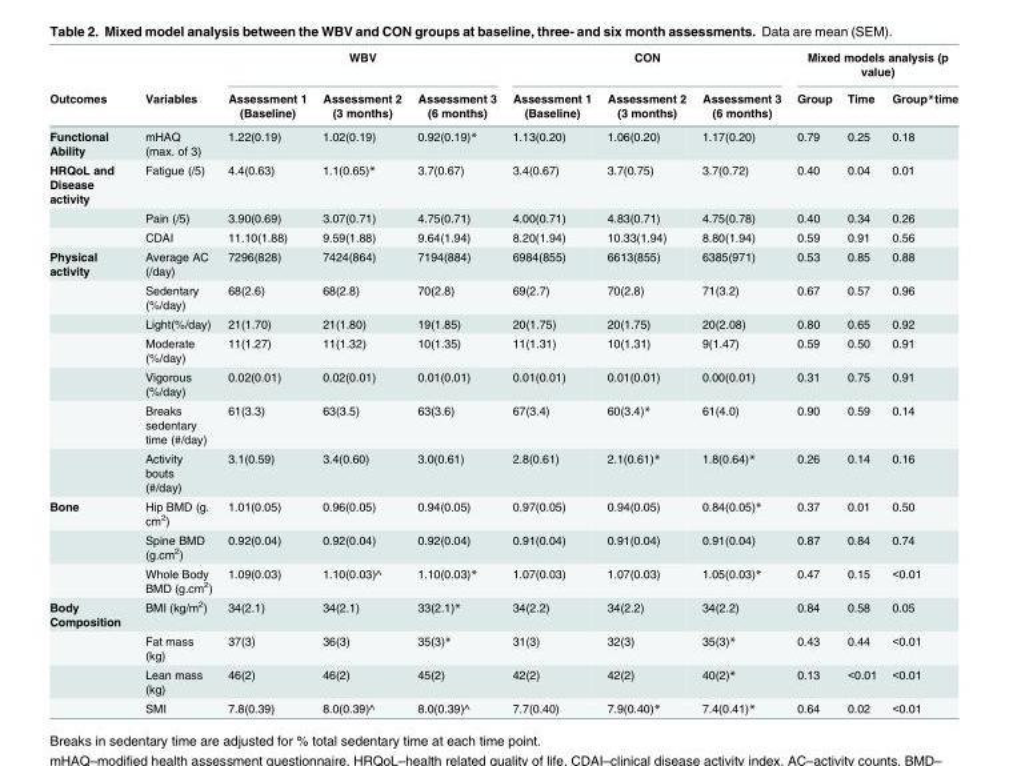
<table><thead><tr><td rowspan="2">Outcomes</td><td rowspan="2">Variables</td><td colspan="3">WBV</td><td colspan="3">CON</td><td colspan="3">Mixed models analysis (p value)</td></tr><tr><td>Assessment 1 (Baseline)</td><td>Assessment 2 (3 months)</td><td>Assessment 3 (6 months)</td><td>Assessment 1 (Baseline)</td><td>Assessment 2 (3 months)</td><td>Assessment 3 (6 months)</td><td>Group</td><td>Time</td><td>Group*time</td></tr></thead><tbody><tr><td>Functional Ability</td><td>mHAQ (max. of 3)</td><td>1.22(0.19)</td><td>1.02(0.19)</td><td>0.92(0.19)*</td><td>1.13(0.20)</td><td>1.06(0.20)</td><td>1.17(0.20)</td><td>0.79</td><td>0.25</td><td>0.18</td></tr><tr><td rowspan="3">HRQoL and Disease activity</td><td>Fatigue (/5)</td><td>4.4(0.63)</td><td>1.1(0.65)*</td><td>3.7(0.67)</td><td>3.4(0.67)</td><td>3.7(0.75)</td><td>3.7(0.72)</td><td>0.40</td><td>0.04</td><td>0.01</td></tr><tr><td>Pain (/5)</td><td>3.90(0.69)</td><td>3.07(0.71)</td><td>4.75(0.71)</td><td>4.00(0.71)</td><td>4.83(0.71)</td><td>4.75(0.78)</td><td>0.40</td><td>0.34</td><td>0.26</td></tr><tr><td>CDAI</td><td>11.10(1.88)</td><td>9.59(1.88)</td><td>9.64(1.94)</td><td>8.20(1.94)</td><td>10.33(1.94)</td><td>8.80(1.94)</td><td>0.59</td><td>0.91</td><td>0.56</td></tr><tr><td rowspan="7">Physical activity</td><td>Average AC (/day)</td><td>7296(828)</td><td>7424(864)</td><td>7194(884)</td><td>6984(855)</td><td>6613(855)</td><td>6385(971)</td><td>0.53</td><td>0.85</td><td>0.88</td></tr><tr><td>Sedentary (%/day)</td><td>68(2.6)</td><td>68(2.8)</td><td>70(2.8)</td><td>69(2.7)</td><td>70(2.8)</td><td>71(3.2)</td><td>0.67</td><td>0.57</td><td>0.96</td></tr><tr><td>Light(%/day)</td><td>21(1.70)</td><td>21(1.80)</td><td>19(1.85)</td><td>20(1.75)</td><td>20(1.75)</td><td>20(2.08)</td><td>0.80</td><td>0.65</td><td>0.92</td></tr><tr><td>Moderate (%/day)</td><td>11(1.27)</td><td>11(1.32)</td><td>10(1.35)</td><td>11(1.31)</td><td>10(1.31)</td><td>9(1.47)</td><td>0.59</td><td>0.50</td><td>0.91</td></tr><tr><td>Vigorous (%/day)</td><td>0.02(0.01)</td><td>0.02(0.01)</td><td>0.01(0.01)</td><td>0.01(0.01)</td><td>0.01(0.01)</td><td>0.00(0.01)</td><td>0.31</td><td>0.75</td><td>0.91</td></tr><tr><td>Breaks sedentary time (#/day)</td><td>61(3.3)</td><td>63(3.5)</td><td>63(3.6)</td><td>67(3.4)</td><td>60(3.4)*</td><td>61(4.0)</td><td>0.90</td><td>0.59</td><td>0.14</td></tr><tr><td>Activity bouts (#/day)</td><td>3.1(0.59)</td><td>3.4(0.60)</td><td>3.0(0.61)</td><td>2.8(0.61)</td><td>2.1(0.61)*</td><td>1.8(0.64)*</td><td>0.26</td><td>0.14</td><td>0.16</td></tr><tr><td rowspan="3">Bone</td><td>Hip BMD (g. cm<sup>2</sup>)</td><td>1.01(0.05)</td><td>0.96(0.05)</td><td>0.94(0.05)</td><td>0.97(0.05)</td><td>0.94(0.05)</td><td>0.84(0.05)*</td><td>0.37</td><td>0.01</td><td>0.50</td></tr><tr><td>Spine BMD (g.cm<sup>2</sup>)</td><td>0.92(0.04)</td><td>0.92(0.04)</td><td>0.92(0.04)</td><td>0.91(0.04)</td><td>0.91(0.04)</td><td>0.91(0.04)</td><td>0.87</td><td>0.84</td><td>0.74</td></tr><tr><td>Whole Body BMD (g.cm<sup>2</sup>)</td><td>1.09(0.03)</td><td>1.10(0.03)^</td><td>1.10(0.03)*</td><td>1.07(0.03)</td><td>1.07(0.03)</td><td>1.05(0.03)*</td><td>0.47</td><td>0.15</td><td>&lt;0.01</td></tr><tr><td rowspan="4">Body Composition</td><td>BMI (kg/m<sup>2</sup>)</td><td>34(2.1)</td><td>34(2.1)</td><td>33(2.1)*</td><td>34(2.2)</td><td>34(2.2)</td><td>34(2.2)</td><td>0.84</td><td>0.58</td><td>0.05</td></tr><tr><td>Fat mass (kg)</td><td>37(3)</td><td>36(3)</td><td>35(3)*</td><td>31(3)</td><td>32(3)</td><td>35(3)*</td><td>0.43</td><td>0.44</td><td>&lt;0.01</td></tr><tr><td>Lean mass (kg)</td><td>46(2)</td><td>46(2)</td><td>45(2)</td><td>42(2)</td><td>42(2)</td><td>40(2)*</td><td>0.13</td><td>&lt;0.01</td><td>&lt;0.01</td></tr><tr><td>SMI</td><td>7.8(0.39)</td><td>8.0(0.39)^</td><td>8.0(0.39)^</td><td>7.7(0.40)</td><td>7.9(0.40)*</td><td>7.4(0.41)*</td><td>0.64</td><td>0.02</td><td>&lt;0.01</td></tr></tbody></table>